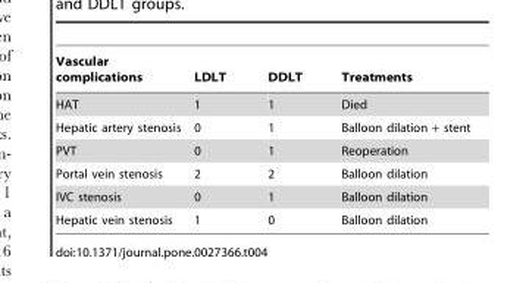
<table><thead><tr><td>Vascular complications</td><td>LDLT</td><td>DDLT</td><td>Treatments</td></tr></thead><tbody><tr><td>HAT</td><td>1</td><td>1</td><td>Died</td></tr><tr><td>Hepatic artery stenosis</td><td>0</td><td>1</td><td>Balloon dilation + stent</td></tr><tr><td>PVT</td><td>0</td><td>1</td><td>Reoperation</td></tr><tr><td>Portal vein stenosis</td><td>2</td><td>2</td><td>Balloon dilation</td></tr><tr><td>IVC stenosis</td><td>0</td><td>1</td><td>Balloon dilation</td></tr><tr><td>Hepatic vein stenosis</td><td>1</td><td>0</td><td>Balloon dilation</td></tr></tbody></table>